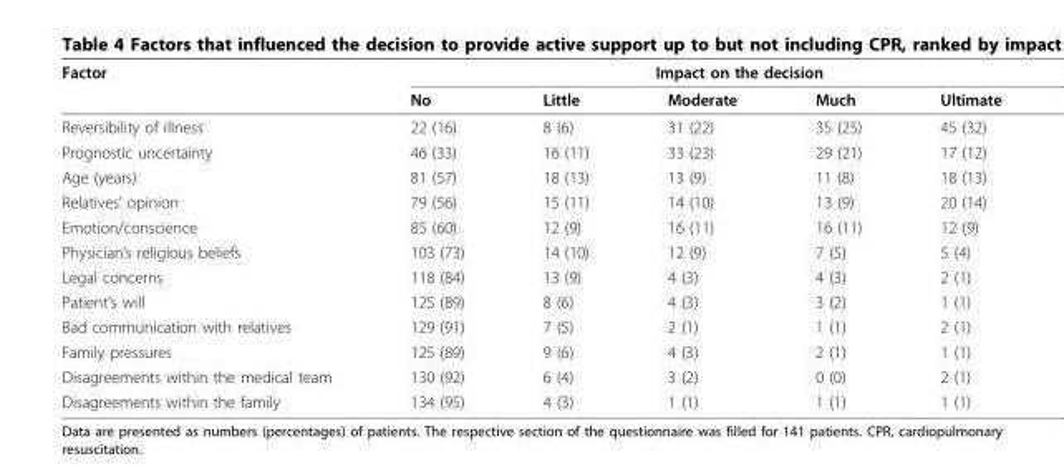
<table><thead><tr><td rowspan="2">Factor</td><td colspan="5">Impact on the decision</td></tr><tr><td>No</td><td>Little</td><td>Moderate</td><td>Much</td><td>Ultimate</td></tr></thead><tbody><tr><td>Reversibility of illness</td><td>22 (16)</td><td>8 (6)</td><td>31 (22)</td><td>35 (25)</td><td>45 (32)</td></tr><tr><td>Prognostic uncertainty</td><td>46 (33)</td><td>16 (11)</td><td>33 (23)</td><td>29 (21)</td><td>17 (12)</td></tr><tr><td>Age (years)</td><td>81 (57)</td><td>18 (13)</td><td>13 (9)</td><td>11 (8)</td><td>18 (13)</td></tr><tr><td>Relatives’ opinion</td><td>79 (56)</td><td>15 (11)</td><td>14 (10)</td><td>13 (9)</td><td>20 (14)</td></tr><tr><td>Emotion/conscience</td><td>85 (60)</td><td>12 (9)</td><td>16 (11)</td><td>16 (11)</td><td>12 (9)</td></tr><tr><td>Physician’s religious beliefs</td><td>103 (73)</td><td>14 (10)</td><td>12 (9)</td><td>7 (5)</td><td>5 (4)</td></tr><tr><td>Legal concerns</td><td>118 (84)</td><td>13 (9)</td><td>4 (3)</td><td>4 (3)</td><td>2 (1)</td></tr><tr><td>Patient’s will</td><td>125 (89)</td><td>8 (6)</td><td>4 (3)</td><td>3 (2)</td><td>1 (1)</td></tr><tr><td>Bad communication with relatives</td><td>129 (91)</td><td>7 (5)</td><td>2 (1)</td><td>1 (1)</td><td>2 (1)</td></tr><tr><td>Family pressures</td><td>125 (89)</td><td>9 (6)</td><td>4 (3)</td><td>2 (1)</td><td>1 (1)</td></tr><tr><td>Disagreements within the medical team</td><td>130 (92)</td><td>6 (4)</td><td>3 (2)</td><td>0 (0)</td><td>2 (1)</td></tr><tr><td>Disagreements within the family</td><td>134 (95)</td><td>4 (3)</td><td>1 (1)</td><td>1 (1)</td><td>1 (1)</td></tr></tbody></table>